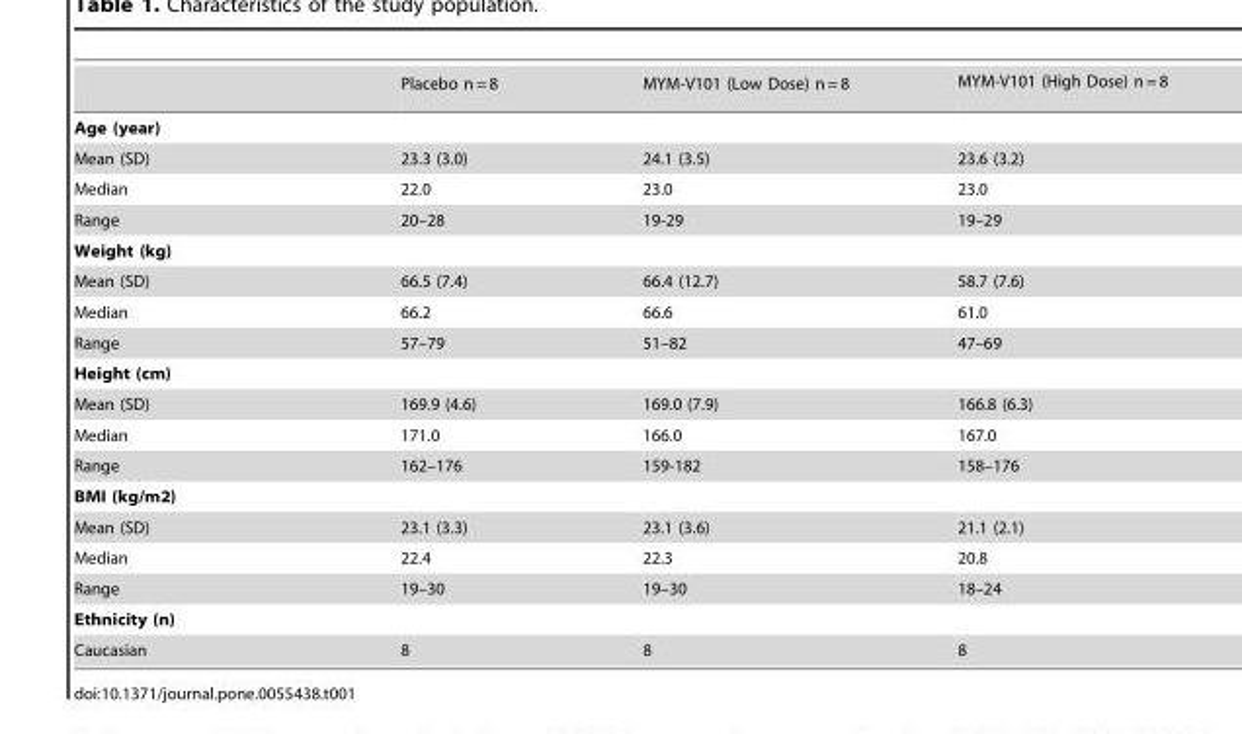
<table><thead><tr><td></td><td>Placebo n = 8</td><td>MYM-V101 (Low Dose) n = 8</td><td>MYM-V101 (High Dose) n = 8</td></tr></thead><tbody><tr><td colspan="4">Age (year)</td></tr><tr><td>Mean (SD)</td><td>23.3 (3.0)</td><td>24.1 (3.5)</td><td>23.6 (3.2)</td></tr><tr><td>Median</td><td>22.0</td><td>23.0</td><td>23.0</td></tr><tr><td>Range</td><td>20–28</td><td>19-29</td><td>19–29</td></tr><tr><td colspan="4">Weight (kg)</td></tr><tr><td>Mean (SD)</td><td>66.5 (7.4)</td><td>66.4 (12.7)</td><td>58.7 (7.6)</td></tr><tr><td>Median</td><td>66.2</td><td>66.6</td><td>61.0</td></tr><tr><td>Range</td><td>57–79</td><td>51–82</td><td>47–69</td></tr><tr><td colspan="4">Height (cm)</td></tr><tr><td>Mean (SD)</td><td>169.9 (4.6)</td><td>169.0 (7.9)</td><td>166.8 (6.3)</td></tr><tr><td>Median</td><td>171.0</td><td>166.0</td><td>167.0</td></tr><tr><td>Range</td><td>162–176</td><td>159-182</td><td>158–176</td></tr><tr><td colspan="4">BMI (kg/m2)</td></tr><tr><td>Mean (SD)</td><td>23.1 (3.3)</td><td>23.1 (3.6)</td><td>21.1 (2.1)</td></tr><tr><td>Median</td><td>22.4</td><td>22.3</td><td>20.8</td></tr><tr><td>Range</td><td>19–30</td><td>19–30</td><td>18–24</td></tr><tr><td colspan="4">Ethnicity (n)</td></tr><tr><td>Caucasian</td><td>8</td><td>8</td><td>8</td></tr></tbody></table>